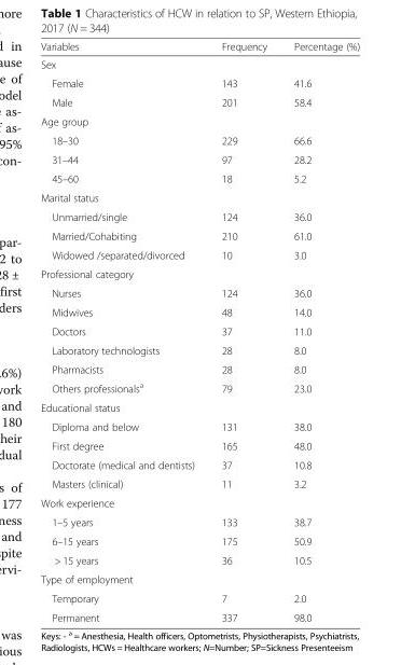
<table><thead><tr><td>Variables</td><td>Frequency</td><td>Percentage (%)</td></tr></thead><tbody><tr><td colspan="3">Sex</td></tr><tr><td>Female</td><td>143</td><td>41.6</td></tr><tr><td>Male</td><td>201</td><td>58.4</td></tr><tr><td colspan="3">Age group</td></tr><tr><td>18–30</td><td>229</td><td>66.6</td></tr><tr><td>31–44</td><td>97</td><td>28.2</td></tr><tr><td>45–60</td><td>18</td><td>5.2</td></tr><tr><td colspan="3">Marital status</td></tr><tr><td>Unmarried/single</td><td>124</td><td>36.0</td></tr><tr><td>Married/Cohabiting</td><td>210</td><td>61.0</td></tr><tr><td>Widowed /separated/divorced</td><td>10</td><td>3.0</td></tr><tr><td colspan="3">Professional category</td></tr><tr><td>Nurses</td><td>124</td><td>36.0</td></tr><tr><td>Midwives</td><td>48</td><td>14.0</td></tr><tr><td>Doctors</td><td>37</td><td>11.0</td></tr><tr><td>Laboratory technologists</td><td>28</td><td>8.0</td></tr><tr><td>Pharmacists</td><td>28</td><td>8.0</td></tr><tr><td>Others professionals<sup>a</sup></td><td>79</td><td>23.0</td></tr><tr><td colspan="3">Educational status</td></tr><tr><td>Diploma and below</td><td>131</td><td>38.0</td></tr><tr><td>First degree</td><td>165</td><td>48.0</td></tr><tr><td>Doctorate (medical and dentists)</td><td>37</td><td>10.8</td></tr><tr><td>Masters (clinical)</td><td>11</td><td>3.2</td></tr><tr><td colspan="3">Work experience</td></tr><tr><td>1–5 years</td><td>133</td><td>38.7</td></tr><tr><td>6–15 years</td><td>175</td><td>50.9</td></tr><tr><td>&gt; 15 years</td><td>36</td><td>10.5</td></tr><tr><td colspan="3">Type of employment</td></tr><tr><td>Temporary</td><td>7</td><td>2.0</td></tr><tr><td>Permanent</td><td>337</td><td>98.0</td></tr></tbody></table>